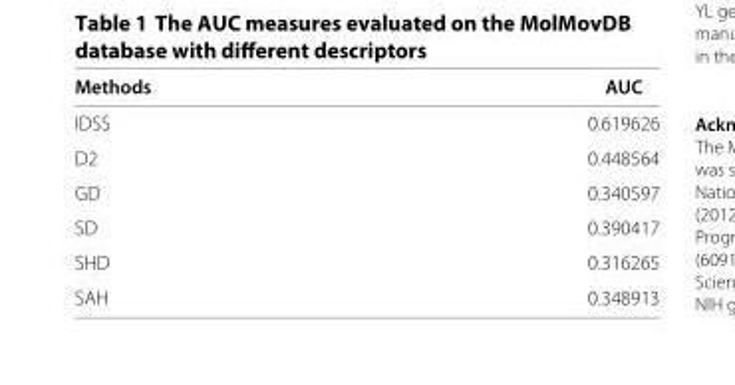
<table><thead><tr><td>Methods</td><td>AUC</td></tr></thead><tbody><tr><td>IDSS</td><td>0.619626</td></tr><tr><td>D2</td><td>0.448564</td></tr><tr><td>GD</td><td>0.340597</td></tr><tr><td>SD</td><td>0.390417</td></tr><tr><td>SHD</td><td>0.316265</td></tr><tr><td>SAH</td><td>0.348913</td></tr></tbody></table>